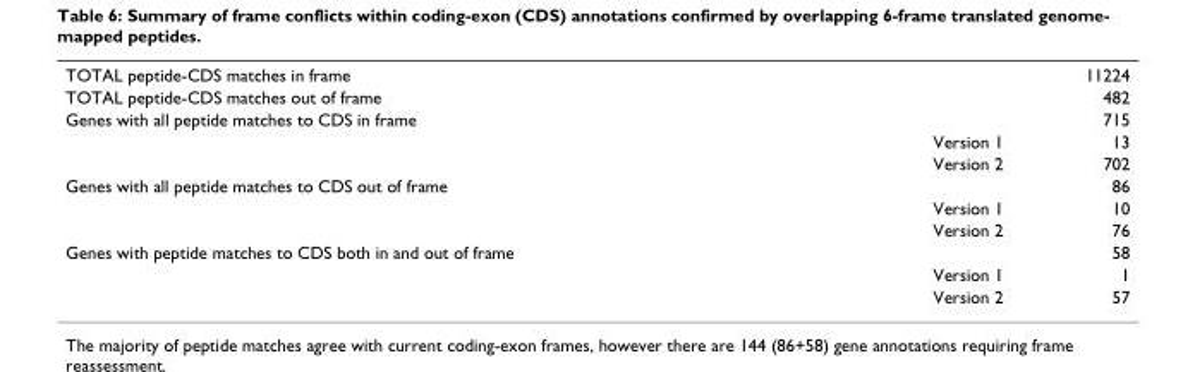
<table><tbody><tr><td>TOTAL peptide-CDS matches in frame</td><td>11224</td></tr><tr><td>TOTAL peptide-CDS matches out of frame</td><td>482</td></tr><tr><td>Genes with all peptide matches to CDS in frame</td><td>715</td></tr><tr><td>Version 1</td><td>13</td></tr><tr><td>Version 2</td><td>702</td></tr><tr><td>Genes with all peptide matches to CDS out of frame</td><td>86</td></tr><tr><td>Version 1</td><td>10</td></tr><tr><td>Version 2</td><td>76</td></tr><tr><td>Genes with peptide matches to CDS both in and out of frame</td><td>58</td></tr><tr><td>Version 1</td><td>1</td></tr><tr><td>Version 2</td><td>57</td></tr></tbody></table>